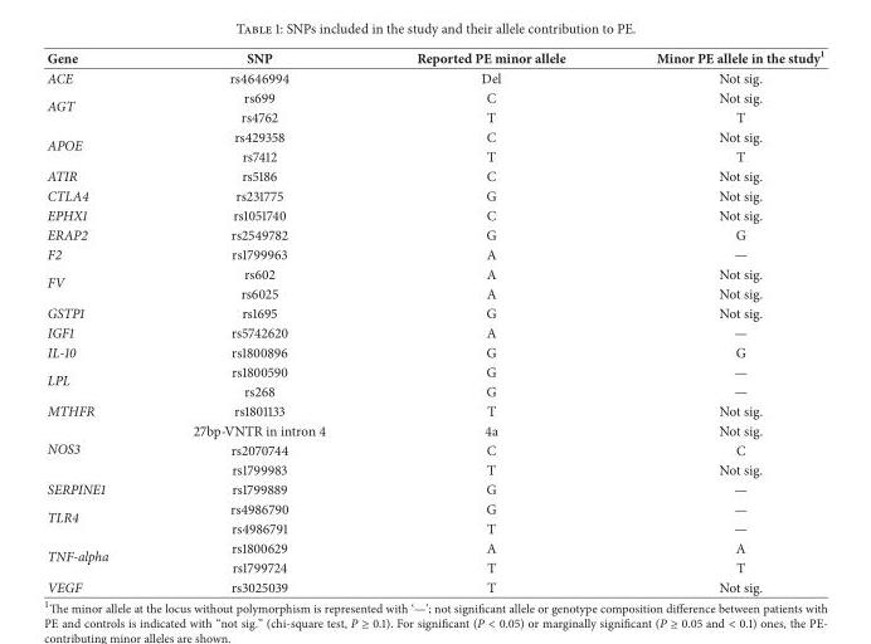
<table><thead><tr><td>Gene</td><td>SNP</td><td>Reported PE minor allele</td><td>Minor PE allele in the study<sup>1</sup></td></tr></thead><tbody><tr><td>ACE</td><td>rs4646994</td><td>Del</td><td>Not sig.</td></tr><tr><td rowspan="2">AGT</td><td>rs699</td><td>C</td><td>Not sig.</td></tr><tr><td>rs4762</td><td>T</td><td>T</td></tr><tr><td rowspan="2">APOE</td><td>rs429358</td><td>C</td><td>Not sig.</td></tr><tr><td>rs7412</td><td>T</td><td>T</td></tr><tr><td>ATIR</td><td>rs5186</td><td>C</td><td>Not sig.</td></tr><tr><td>CTLA4</td><td>rs231775</td><td>G</td><td>Not sig.</td></tr><tr><td>EPHX1</td><td>rs1051740</td><td>C</td><td>Not sig.</td></tr><tr><td>ERAP2</td><td>rs2549782</td><td>G</td><td>G</td></tr><tr><td>F2</td><td>rs1799963</td><td>A</td><td>—</td></tr><tr><td rowspan="2">FV</td><td>rs602</td><td>A</td><td>Not sig.</td></tr><tr><td>rs6025</td><td>A</td><td>Not sig.</td></tr><tr><td>GSTP1</td><td>rs1695</td><td>G</td><td>Not sig.</td></tr><tr><td>IGF1</td><td>rs5742620</td><td>A</td><td>—</td></tr><tr><td>IL-10</td><td>rs1800896</td><td>G</td><td>G</td></tr><tr><td rowspan="2">LPL</td><td>rs1800590</td><td>G</td><td>—</td></tr><tr><td>rs268</td><td>G</td><td>—</td></tr><tr><td>MTHFR</td><td>rs1801133</td><td>T</td><td>Not sig.</td></tr><tr><td rowspan="3">NOS3</td><td>27bp-VNTR in intron 4</td><td>4a</td><td>Not sig.</td></tr><tr><td>rs2070744</td><td>C</td><td>C</td></tr><tr><td>rs1799983</td><td>T</td><td>Not sig.</td></tr><tr><td>SERPINE1</td><td>rs1799889</td><td>G</td><td>—</td></tr><tr><td rowspan="2">TLR4</td><td>rs4986790</td><td>G</td><td>—</td></tr><tr><td>rs4986791</td><td>T</td><td>—</td></tr><tr><td rowspan="2">TNF-alpha</td><td>rs1800629</td><td>A</td><td>A</td></tr><tr><td>rs1799724</td><td>T</td><td>T</td></tr><tr><td>VEGF</td><td>rs3025039</td><td>T</td><td>Not sig.</td></tr></tbody></table>